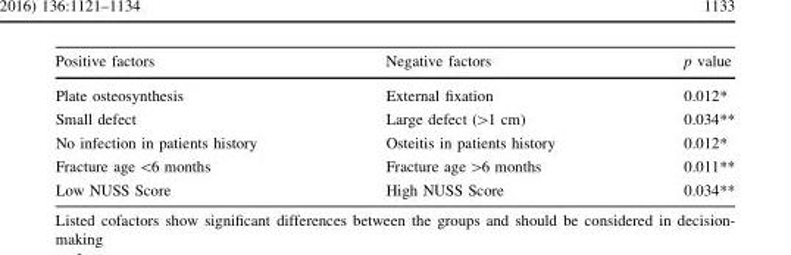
<table><thead><tr><td>Positive factors</td><td>Negative factors</td><td>p value</td></tr></thead><tbody><tr><td>Plate osteosynthesis</td><td>External fixation</td><td>0.012*</td></tr><tr><td>Small defect</td><td>Large defect (&gt;1 cm)</td><td>0.034**</td></tr><tr><td>No infection in patients history</td><td>Osteitis in patients history</td><td>0.012*</td></tr><tr><td>Fracture age &lt;6 months</td><td>Fracture age &gt;6 months</td><td>0.011**</td></tr><tr><td>Low NUSS Score</td><td>High NUSS Score</td><td>0.034**</td></tr></tbody></table>